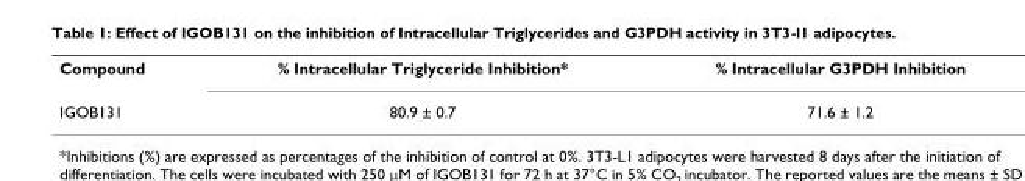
<table><tbody><tr><td>Compound</td><td>% Intracellular Triglyceride Inhibition*</td><td>% Intracellular G3PDH Inhibition</td></tr><tr><td>IGOB131</td><td>80.9 ± 0.7</td><td>71.6 ± 1.2</td></tr></tbody></table>